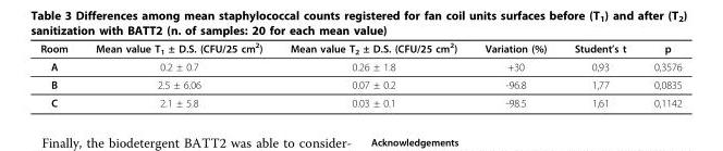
<table><thead><tr><td>Room</td><td>Mean value T<sub>1</sub> ± D.S. (CFU/25 cm<sup>2</sup>)</td><td>Mean value T<sub>2</sub> ± D.S. (CFU/25 cm<sup>2</sup>)</td><td>Variation (%)</td><td>Student’s t</td><td>p</td></tr></thead><tbody><tr><td>A</td><td>0.2 ± 0.7</td><td>0.26 ± 1.8</td><td>+30</td><td>0,93</td><td>0,3576</td></tr><tr><td>B</td><td>2.5 ± 6.06</td><td>0.07 ± 0.2</td><td>-96.8</td><td>1,77</td><td>0,0835</td></tr><tr><td>C</td><td>2.1 ± 5.8</td><td>0.03 ± 0.1</td><td>-98.5</td><td>1,61</td><td>0,1142</td></tr></tbody></table>